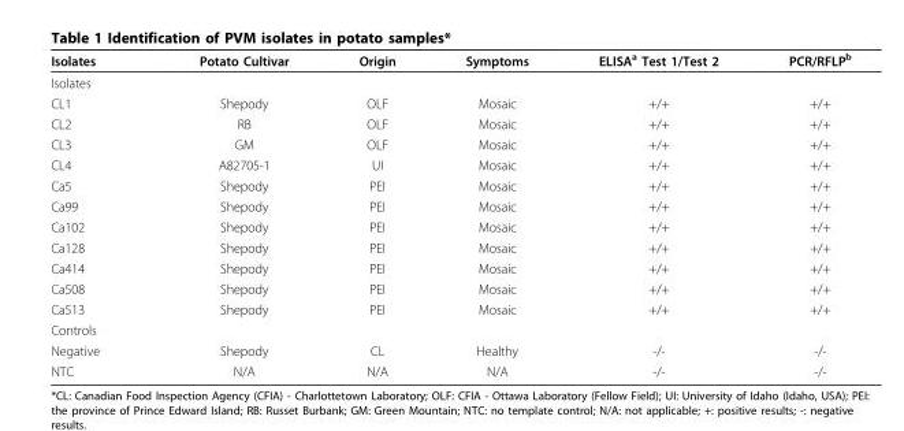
<table><thead><tr><td>Isolates</td><td>Potato Cultivar</td><td>Origin</td><td>Symptoms</td><td>ELISA<sup>a</sup> Test 1/Test 2</td><td>PCR/RFLP<sup>b</sup></td></tr></thead><tbody><tr><td colspan="6">Isolates</td></tr><tr><td>CL1</td><td>Shepody</td><td>OLF</td><td>Mosaic</td><td>+/+</td><td>+/+</td></tr><tr><td>CL2</td><td>RB</td><td>OLF</td><td>Mosaic</td><td>+/+</td><td>+/+</td></tr><tr><td>CL3</td><td>GM</td><td>OLF</td><td>Mosaic</td><td>+/+</td><td>+/+</td></tr><tr><td>CL4</td><td>A82705-1</td><td>UI</td><td>Mosaic</td><td>+/+</td><td>+/+</td></tr><tr><td>Ca5</td><td>Shepody</td><td>PEI</td><td>Mosaic</td><td>+/+</td><td>+/+</td></tr><tr><td>Ca99</td><td>Shepody</td><td>PEI</td><td>Mosaic</td><td>+/+</td><td>+/+</td></tr><tr><td>Ca102</td><td>Shepody</td><td>PEI</td><td>Mosaic</td><td>+/+</td><td>+/+</td></tr><tr><td>Ca128</td><td>Shepody</td><td>PEI</td><td>Mosaic</td><td>+/+</td><td>+/+</td></tr><tr><td>Ca414</td><td>Shepody</td><td>PEI</td><td>Mosaic</td><td>+/+</td><td>+/+</td></tr><tr><td>Ca508</td><td>Shepody</td><td>PEI</td><td>Mosaic</td><td>+/+</td><td>+/+</td></tr><tr><td>Ca513</td><td>Shepody</td><td>PEI</td><td>Mosaic</td><td>+/+</td><td>+/+</td></tr><tr><td colspan="6">Controls</td></tr><tr><td>Negative</td><td>Shepody</td><td>CL</td><td>Healthy</td><td>-/-</td><td>-/-</td></tr><tr><td>NTC</td><td>N/A</td><td>N/A</td><td>N/A</td><td>-/-</td><td>-/-</td></tr></tbody></table>